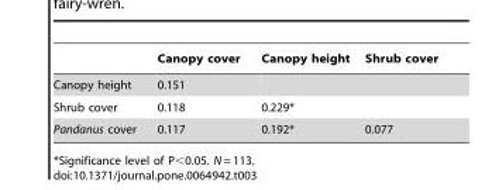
<table><thead><tr><td></td><td>Canopy cover</td><td>Canopy height</td><td>Shrub cover</td></tr></thead><tbody><tr><td>Canopy height</td><td>0.151</td><td></td><td></td></tr><tr><td>Shrub cover</td><td>0.118</td><td>0.229*</td><td></td></tr><tr><td>Pandanus cover</td><td>0.117</td><td>0.192*</td><td>0.077</td></tr></tbody></table>